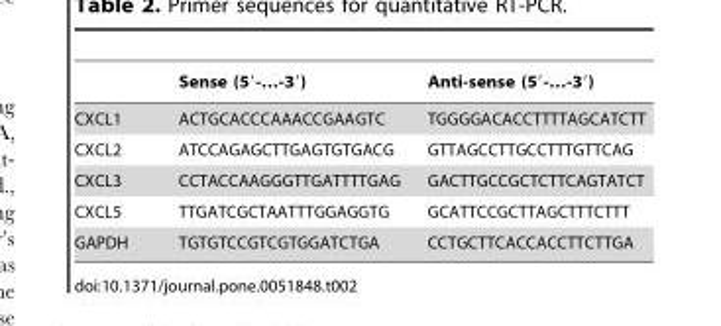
<table><thead><tr><td></td><td>Sense (5′-…-3′)</td><td>Anti-sense (5′-…-3′)</td></tr></thead><tbody><tr><td>CXCL1</td><td>ACTGCACCCAAACCGAAGTC</td><td>TGGGGACACCTTTTAGCATCTT</td></tr><tr><td>CXCL2</td><td>ATCCAGAGCTTGAGTGTGACG</td><td>GTTAGCCTTGCCTTTGTTCAG</td></tr><tr><td>CXCL3</td><td>CCTACCAAGGGTTGATTTTGAG</td><td>GACTTGCCGCTCTTCAGTATCT</td></tr><tr><td>CXCL5</td><td>TTGATCGCTAATTTGGAGGTG</td><td>GCATTCCGCTTAGCTTTCTTT</td></tr><tr><td>GAPDH</td><td>TGTGTCCGTCGTGGATCTGA</td><td>CCTGCTTCACCACCTTCTTGA</td></tr></tbody></table>